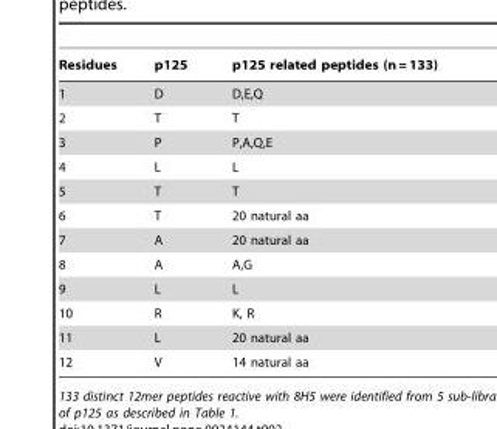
<table><thead><tr><td>Residues</td><td>p125</td><td>p125 related peptides (n = 133)</td></tr></thead><tbody><tr><td>1</td><td>D</td><td>D,E,Q</td></tr><tr><td>2</td><td>T</td><td>T</td></tr><tr><td>3</td><td>P</td><td>P,A,Q,E</td></tr><tr><td>4</td><td>L</td><td>L</td></tr><tr><td>5</td><td>T</td><td>T</td></tr><tr><td>6</td><td>T</td><td>20 natural aa</td></tr><tr><td>7</td><td>A</td><td>20 natural aa</td></tr><tr><td>8</td><td>A</td><td>A,G</td></tr><tr><td>9</td><td>L</td><td>L</td></tr><tr><td>10</td><td>R</td><td>K, R</td></tr><tr><td>11</td><td>L</td><td>20 natural aa</td></tr><tr><td>12</td><td>V</td><td>14 natural aa</td></tr></tbody></table>